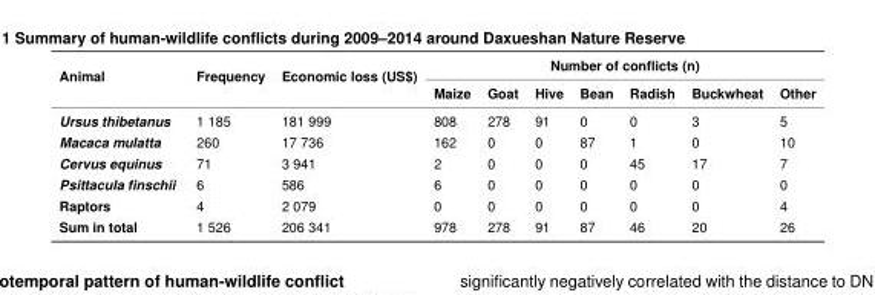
<table><thead><tr><td rowspan="2">Animal</td><td rowspan="2">Frequency</td><td rowspan="2">Economic loss (US$)</td><td colspan="7">Number of conflicts (n)</td></tr><tr><td>Maize</td><td>Goat</td><td>Hive</td><td>Bean</td><td>Radish</td><td>Buckwheat</td><td>Other</td></tr></thead><tbody><tr><td>Ursus thibetanus</td><td>1 185</td><td>181 999</td><td>808</td><td>278</td><td>91</td><td>0</td><td>0</td><td>3</td><td>5</td></tr><tr><td>Macaca mulatta</td><td>260</td><td>17 736</td><td>162</td><td>0</td><td>0</td><td>87</td><td>1</td><td>0</td><td>10</td></tr><tr><td>Cervus equinus</td><td>71</td><td>3 941</td><td>2</td><td>0</td><td>0</td><td>0</td><td>45</td><td>17</td><td>7</td></tr><tr><td>Psittacula finschii</td><td>6</td><td>586</td><td>6</td><td>0</td><td>0</td><td>0</td><td>0</td><td>0</td><td>0</td></tr><tr><td>Raptors</td><td>4</td><td>2 079</td><td>0</td><td>0</td><td>0</td><td>0</td><td>0</td><td>0</td><td>4</td></tr><tr><td>Sum in total</td><td>1 526</td><td>206 341</td><td>978</td><td>278</td><td>91</td><td>87</td><td>46</td><td>20</td><td>26</td></tr></tbody></table>